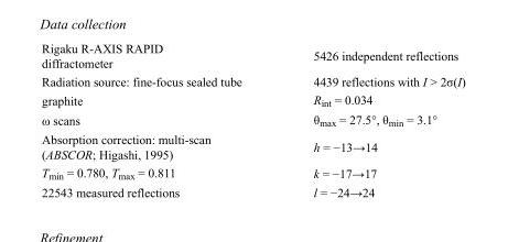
<table><tbody><tr><td>Rigaku R-AXIS RAPID diffractometer</td><td>5426 independent reflections</td></tr><tr><td>Radiation source: fine-focus sealed tube</td><td>4439 reflections with I &gt; 2σ(I)</td></tr><tr><td>graphite</td><td>R<sub>int</sub> = 0.034</td></tr><tr><td>ω scans</td><td>θ<sub>max</sub> = 27.5°, θ<sub>min</sub> = 3.1°</td></tr><tr><td>Absorption correction: multi-scan (ABSCOR; Higashi, 1995)</td><td>h = −13→14</td></tr><tr><td>T<sub>min</sub> = 0.780, T<sub>max</sub> = 0.811</td><td>k = −17→17</td></tr><tr><td>22543 measured reflections</td><td>l = −24→24</td></tr></tbody></table>